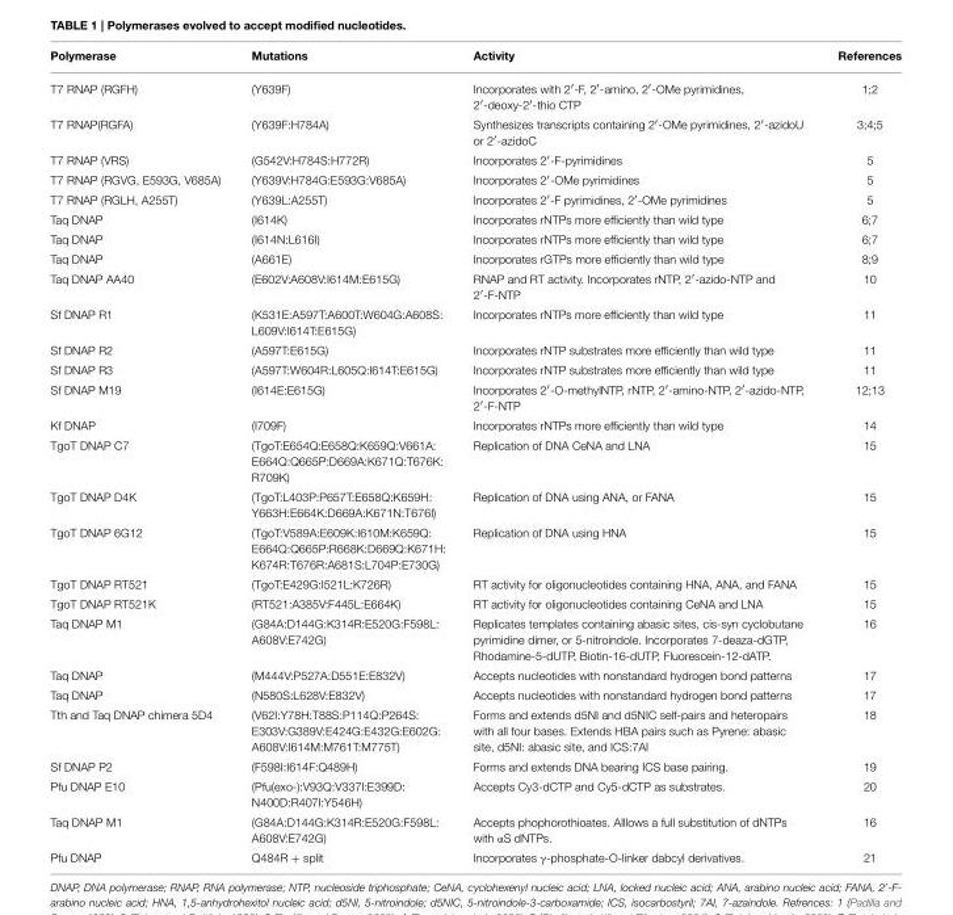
<table><thead><tr><td>Polymerase</td><td>Mutations</td><td>Activity</td><td>References</td></tr></thead><tbody><tr><td>T7 RNAP (RGFH)</td><td>(Y639F)</td><td>Incorporates with 2′-F, 2′-amino, 2′-OMe pyrimidines, 2′-deoxy-2′-thio CTP</td><td>1;2</td></tr><tr><td>T7 RNAP(RGFA)</td><td>(Y639F:H784A)</td><td>Synthesizes transcripts containing 2′-OMe pyrimidines, 2′-azidoU or 2′-azidoC</td><td>3;4;5</td></tr><tr><td>T7 RNAP (VRS)</td><td>(G542V:H784S:H772R)</td><td>Incorporates 2′-F-pyrimidines</td><td>5</td></tr><tr><td>T7 RNAP (RGVG, E593G, V685A)</td><td>(Y639V:H784G:E593G:V685A)</td><td>Incorporates 2′-OMe pyrimidines</td><td>5</td></tr><tr><td>T7 RNAP (RGLH, A255T)</td><td>(Y639L:A255T)</td><td>Incorporates 2′-F pyrimidines, 2′-OMe pyrimidines</td><td>5</td></tr><tr><td>Taq DNAP</td><td>(I614K)</td><td>Incorporates rNTPs more efficiently than wild type</td><td>6;7</td></tr><tr><td>Taq DNAP</td><td>(I614N:L616I)</td><td>Incorporates rNTPs more efficiently than wild type</td><td>6;7</td></tr><tr><td>Taq DNAP</td><td>(A661E)</td><td>Incorporates rGTPs more efficiently than wild type</td><td>8;9</td></tr><tr><td>Taq DNAP AA40</td><td>(E602V:A608V:I614M:E615G)</td><td>RNAP and RT activity. Incorporates rNTP, 2′-azido-NTP and 2′-F-NTP</td><td>10</td></tr><tr><td>Sf DNAP R1</td><td>(K531E:A597T:A600T:W604G:A608S: L609V:I614T:E615G)</td><td>Incorporates rNTPs more efficiently than wild type</td><td>11</td></tr><tr><td>Sf DNAP R2</td><td>(A597T:E615G)</td><td>Incorporates rNTP substrates more efficiently than wild type</td><td>11</td></tr><tr><td>Sf DNAP R3</td><td>(A597T:W604R:L605Q:I614T:E615G)</td><td>Incorporates rNTP substrates more efficiently than wild type</td><td>11</td></tr><tr><td>Sf DNAP M19</td><td>(I614E:E615G)</td><td>Incorporates 2′-O-methylNTP, rNTP, 2′-amino-NTP, 2′-azido-NTP, 2′-F-NTP</td><td>12;13</td></tr><tr><td>Kf DNAP</td><td>(I709F)</td><td>Incorporates rNTPs more efficiently than wild type</td><td>14</td></tr><tr><td>TgoT DNAP C7</td><td>(TgoT:E654Q:E658Q:K659Q:V661A: E664Q:Q665P:D669A:K671Q:T676K: R709K)</td><td>Replication of DNA CeNA and LNA</td><td>15</td></tr><tr><td>TgoT DNAP D4K</td><td>(TgoT:L403P:P657T:E658Q:K659H: Y663H:E664K:D669A:K671N:T676I)</td><td>Replication of DNA using ANA, or FANA</td><td>15</td></tr><tr><td>TgoT DNAP 6G12</td><td>(TgoT:V589A:E609K:I610M:K659Q: E664Q:Q665P:R668K:D669Q:K671H: K674R:T676R:A681S:L704P:E730G)</td><td>Replication of DNA using HNA</td><td>15</td></tr><tr><td>TgoT DNAP RT521</td><td>(TgoT:E429G:I521L:K726R)</td><td>RT activity for oligonucleotides containing HNA, ANA, and FANA</td><td>15</td></tr><tr><td>TgoT DNAP RT521K</td><td>(RT521:A385V:F445L:E664K)</td><td>RT activity for oligonucleotides containing CeNA and LNA</td><td>15</td></tr><tr><td>Taq DNAP M1</td><td>(G84A:D144G:K314R:E520G:F598L: A608V:E742G)</td><td>Replicates templates containing abasic sites, cis-syn cyclobutane pyrimidine dimer, or 5-nitroindole. Incorporates 7-deaza-dGTP, Rhodamine-5-dUTP, Biotin-16-dUTP, Fluorescein-12-dATP.</td><td>16</td></tr><tr><td>Taq DNAP</td><td>(M444V:P527A:D551E:E832V)</td><td>Accepts nucleotides with nonstandard hydrogen bond patterns</td><td>17</td></tr><tr><td>Taq DNAP</td><td>(N580S:L628V:E832V)</td><td>Accepts nucleotides with nonstandard hydrogen bond patterns</td><td>17</td></tr><tr><td>Tth and Taq DNAP chimera 5D4</td><td>(V62I:Y78H:T88S:P114Q:P264S: E303V:G389V:E424G:E432G:E602G: A608V:I614M:M761T:M775T)</td><td>Forms and extends d5NI and d5NIC self-pairs and heteropairs with all four bases. Extends HBA pairs such as Pyrene: abasic site, d5NI: abasic site, and ICS:7AI</td><td>18</td></tr><tr><td>Sf DNAP P2</td><td>(F598I:I614F:Q489H)</td><td>Forms and extends DNA bearing ICS base pairing.</td><td>19</td></tr><tr><td>Pfu DNAP E10</td><td>(Pfu(exo-):V93Q:V337I:E399D: N400D:R407I:Y546H)</td><td>Accepts Cy3-dCTP and Cy5-dCTP as substrates.</td><td>20</td></tr><tr><td>Taq DNAP M1</td><td>(G84A:D144G:K314R:E520G:F598L: A608V:E742G)</td><td>Accepts phophorothioates. Alllows a full substitution of dNTPs with αS dNTPs.</td><td>16</td></tr><tr><td>Pfu DNAP</td><td>Q484R + split</td><td>Incorporates γ-phosphate-O-linker dabcyl derivatives.</td><td>21</td></tr></tbody></table>